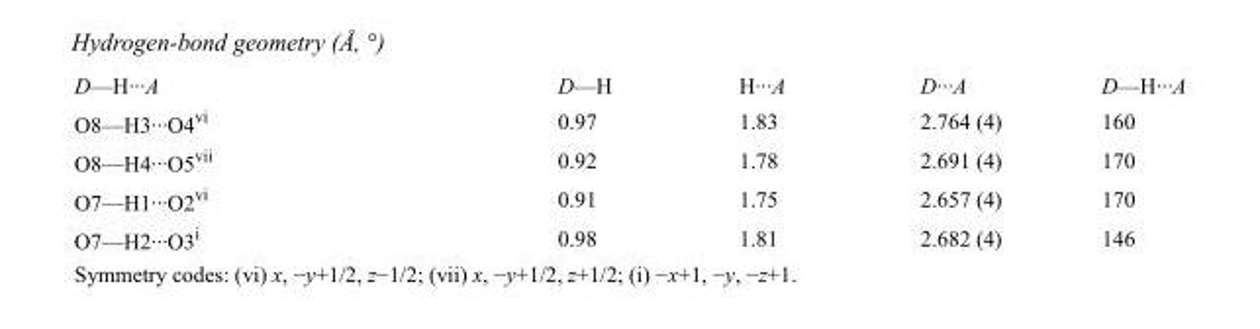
<table><tbody><tr><td>D—H···A</td><td>D—H</td><td>H···A</td><td>D···A</td><td>D—H···A</td></tr><tr><td>O8—H3···O4<sup>vi</sup></td><td>0.97</td><td>1.83</td><td>2.764 (4)</td><td>160</td></tr><tr><td>O8—H4···O5<sup>vii</sup></td><td>0.92</td><td>1.78</td><td>2.691 (4)</td><td>170</td></tr><tr><td>O7—H1···O2<sup>vi</sup></td><td>0.91</td><td>1.75</td><td>2.657 (4)</td><td>170</td></tr><tr><td>O7—H2···O3<sup>i</sup></td><td>0.98</td><td>1.81</td><td>2.682 (4)</td><td>146</td></tr></tbody></table>